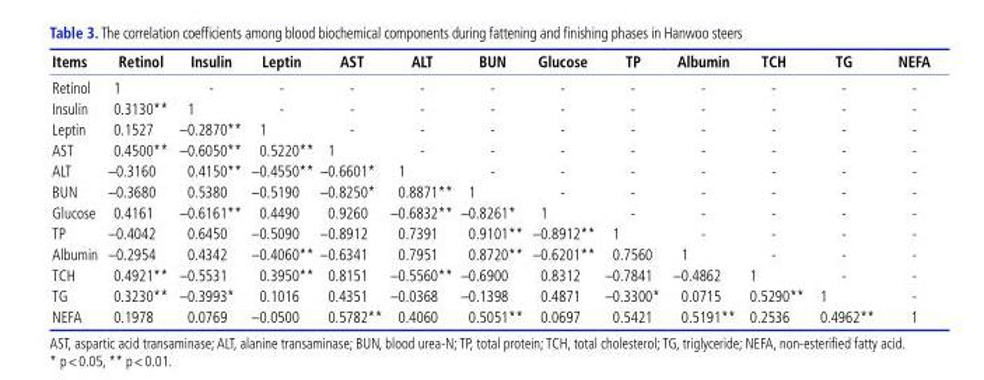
<table><thead><tr><td>Items</td><td>Retinol</td><td>Insulin</td><td>Leptin</td><td>AST</td><td>ALT</td><td>BUN</td><td>Glucose</td><td>TP</td><td>Albumin</td><td>TCH</td><td>TG</td><td>NEFA</td></tr></thead><tbody><tr><td>Retinol</td><td>1</td><td>-</td><td>-</td><td>-</td><td>-</td><td>-</td><td>-</td><td>-</td><td>-</td><td>-</td><td>-</td><td>-</td></tr><tr><td>Insulin</td><td>0.3130**</td><td>1</td><td>-</td><td>-</td><td>-</td><td>-</td><td>-</td><td>-</td><td>-</td><td>-</td><td>-</td><td>-</td></tr><tr><td>Leptin</td><td>0.1527</td><td>–0.2870**</td><td>1</td><td>-</td><td>-</td><td>-</td><td>-</td><td>-</td><td>-</td><td>-</td><td>-</td><td>-</td></tr><tr><td>AST</td><td>0.4500**</td><td>–0.6050**</td><td>0.5220**</td><td>1</td><td>-</td><td>-</td><td>-</td><td>-</td><td>-</td><td>-</td><td>-</td><td>-</td></tr><tr><td>ALT</td><td>–0.3160</td><td>0.4150**</td><td>–0.4550**</td><td>–0.6601*</td><td>1</td><td>-</td><td>-</td><td>-</td><td>-</td><td>-</td><td>-</td><td>-</td></tr><tr><td>BUN</td><td>–0.3680</td><td>0.5380</td><td>–0.5190</td><td>–0.8250*</td><td>0.8871**</td><td>1</td><td>-</td><td>-</td><td>-</td><td>-</td><td>-</td><td>-</td></tr><tr><td>Glucose</td><td>0.4161</td><td>–0.6161**</td><td>0.4490</td><td>0.9260</td><td>–0.6832**</td><td>–0.8261*</td><td>1</td><td>-</td><td>-</td><td>-</td><td>-</td><td>-</td></tr><tr><td>TP</td><td>–0.4042</td><td>0.6450</td><td>–0.5090</td><td>–0.8912</td><td>0.7391</td><td>0.9101**</td><td>–0.8912**</td><td>1</td><td>-</td><td>-</td><td>-</td><td>-</td></tr><tr><td>Albumin</td><td>–0.2954</td><td>0.4342</td><td>–0.4060**</td><td>–0.6341</td><td>0.7951</td><td>0.8720**</td><td>–0.6201**</td><td>0.7560</td><td>1</td><td>-</td><td>-</td><td>-</td></tr><tr><td>TCH</td><td>0.4921**</td><td>–0.5531</td><td>0.3950**</td><td>0.8151</td><td>–0.5560**</td><td>–0.6900</td><td>0.8312</td><td>–0.7841</td><td>–0.4862</td><td>1</td><td>-</td><td>-</td></tr><tr><td>TG</td><td>0.3230**</td><td>–0.3993*</td><td>0.1016</td><td>0.4351</td><td>–0.0368</td><td>–0.1398</td><td>0.4871</td><td>–0.3300*</td><td>0.0715</td><td>0.5290**</td><td>1</td><td>-</td></tr><tr><td>NEFA</td><td>0.1978</td><td>0.0769</td><td>–0.0500</td><td>0.5782**</td><td>0.4060</td><td>0.5051**</td><td>0.0697</td><td>0.5421</td><td>0.5191**</td><td>0.2536</td><td>0.4962**</td><td>1</td></tr></tbody></table>